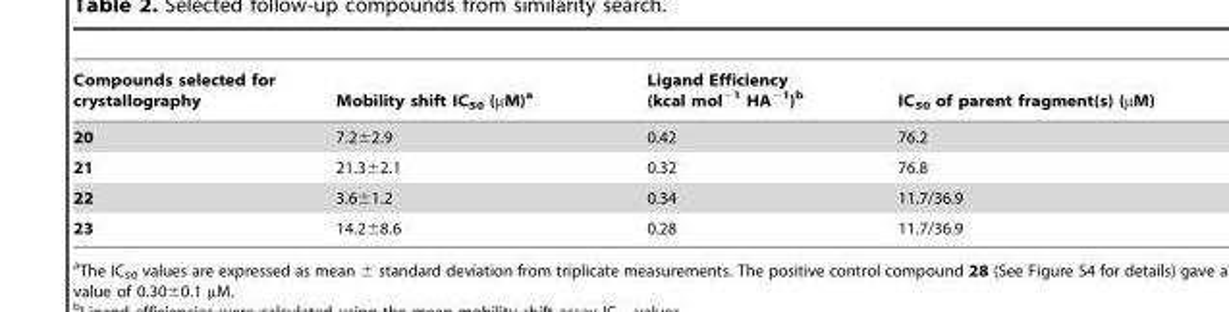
<table><thead><tr><td>Compounds selected for crystallography</td><td>Mobility shift IC<sub>50</sub> (µM)<sup>a</sup></td><td>Ligand Efficiency (kcal mol<sup>−1</sup> HA<sup>−1</sup>)<sup>b</sup></td><td>IC<sub>50</sub> of parent fragment(s) (µM)</td></tr></thead><tbody><tr><td>20</td><td>7.2±2.9</td><td>0.42</td><td>76.2</td></tr><tr><td>21</td><td>21.3±2.1</td><td>0.32</td><td>76.8</td></tr><tr><td>22</td><td>3.6±1.2</td><td>0.34</td><td>11.7/36.9</td></tr><tr><td>23</td><td>14.2±8.6</td><td>0.28</td><td>11.7/36.9</td></tr></tbody></table>